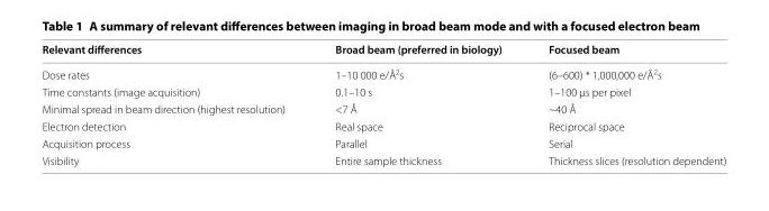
<table><thead><tr><td>Relevant differences</td><td>Broad beam (preferred in biology)</td><td>Focused beam</td></tr></thead><tbody><tr><td>Dose rates</td><td>1–10 000 e/Å<sup>2</sup>s</td><td>(6–600) * 1,000,000 e/Å<sup>2</sup>s</td></tr><tr><td>Time constants (image acquisition)</td><td>0.1–10 s</td><td>1–100 μs per pixel</td></tr><tr><td>Minimal spread in beam direction (highest resolution)</td><td>&lt;7 Å</td><td>~40 Å</td></tr><tr><td>Electron detection</td><td>Real space</td><td>Reciprocal space</td></tr><tr><td>Acquisition process</td><td>Parallel</td><td>Serial</td></tr><tr><td>Visibility</td><td>Entire sample thickness</td><td>Thickness slices (resolution dependent)</td></tr></tbody></table>